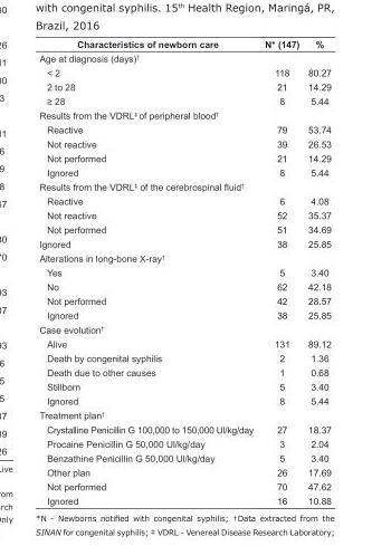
<table><tbody><tr><td>Characteristics of newborn care</td><td>N* (147)</td><td>%</td></tr><tr><td colspan="3">Age at diagnosis (days)<sup>†</sup></td></tr><tr><td>&lt; 2</td><td>118</td><td>80.27</td></tr><tr><td>2 to 28</td><td>21</td><td>14.29</td></tr><tr><td>≥ 28</td><td>8</td><td>5.44</td></tr><tr><td colspan="3">Results from the VDRL<sup>‡</sup> of peripheral blood<sup>†</sup></td></tr><tr><td>Reactive</td><td>79</td><td>53.74</td></tr><tr><td>Not reactive</td><td>39</td><td>26.53</td></tr><tr><td>Not performed</td><td>21</td><td>14.29</td></tr><tr><td>Ignored</td><td>8</td><td>5.44</td></tr><tr><td colspan="3">Results from the VDRL<sup>‡</sup> of the cerebrospinal fluid<sup>†</sup></td></tr><tr><td>Reactive</td><td>6</td><td>4.08</td></tr><tr><td>Not reactive</td><td>52</td><td>35.37</td></tr><tr><td>Not performed</td><td>51</td><td>34.69</td></tr><tr><td>Ignored</td><td>38</td><td>25.85</td></tr><tr><td colspan="3">Alterations in long-bone X-ray<sup>†</sup></td></tr><tr><td>Yes</td><td>5</td><td>3.40</td></tr><tr><td>No</td><td>62</td><td>42.18</td></tr><tr><td>Not performed</td><td>42</td><td>28.57</td></tr><tr><td>Ignored</td><td>38</td><td>25.85</td></tr><tr><td colspan="3">Case evolution<sup>†</sup></td></tr><tr><td>Alive</td><td>131</td><td>89.12</td></tr><tr><td>Death by congenital syphilis</td><td>2</td><td>1.36</td></tr><tr><td>Death due to other causes</td><td>1</td><td>0.68</td></tr><tr><td>Stillborn</td><td>5</td><td>3.40</td></tr><tr><td>Ignored</td><td>8</td><td>5.44</td></tr><tr><td colspan="3">Treatment plan<sup>†</sup></td></tr><tr><td>Crystalline Penicillin G 100,000 to 150,000 Ul/kg/day</td><td>27</td><td>18.37</td></tr><tr><td>Procaine Penicillin G 50,000 Ul/kg/day</td><td>3</td><td>2.04</td></tr><tr><td>Benzathine Penicillin G 50,000 Ul/kg/day</td><td>5</td><td>3.40</td></tr><tr><td>Other plan</td><td>26</td><td>17.69</td></tr><tr><td>Not performed</td><td>70</td><td>47.62</td></tr><tr><td>Ignored</td><td>16</td><td>10.88</td></tr></tbody></table>